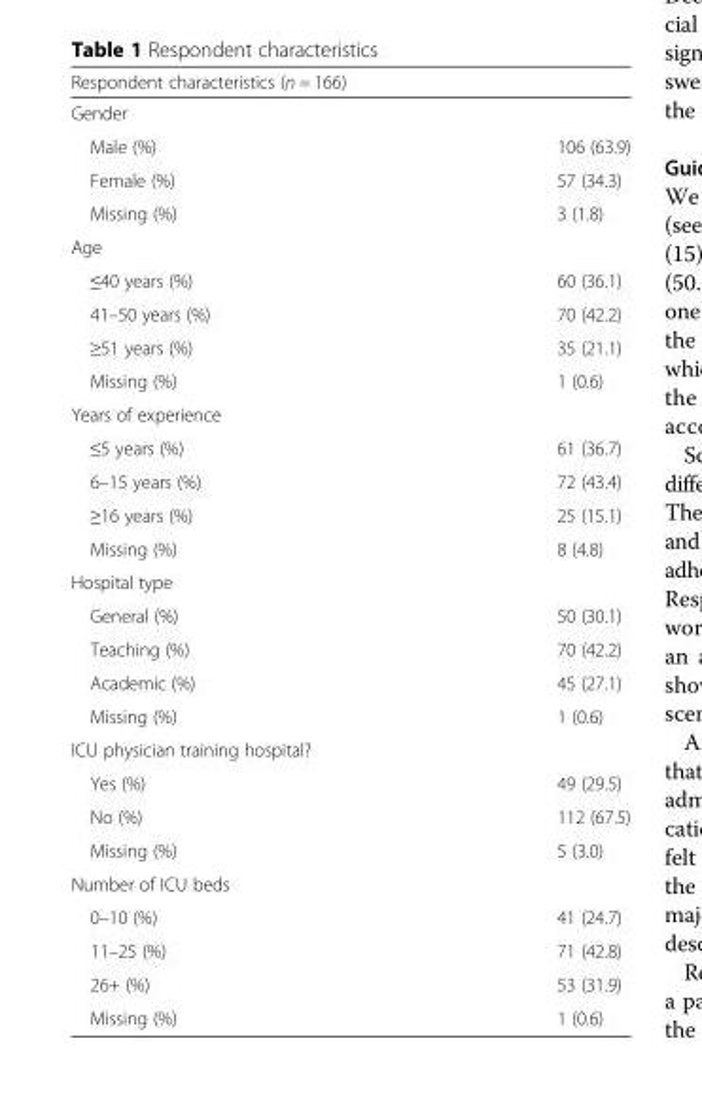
<table><thead><tr><td colspan="2">Respondent characteristics (n = 166)</td></tr><tr><td>Gender</td><td></td></tr></thead><tbody><tr><td>Male (%)</td><td>106 (63.9)</td></tr><tr><td>Female (%)</td><td>57 (34.3)</td></tr><tr><td>Missing (%)</td><td>3 (1.8)</td></tr><tr><td colspan="2">Age</td></tr><tr><td>≤40 years (%)</td><td>60 (36.1)</td></tr><tr><td>41–50 years (%)</td><td>70 (42.2)</td></tr><tr><td>≥51 years (%)</td><td>35 (21.1)</td></tr><tr><td>Missing (%)</td><td>1 (0.6)</td></tr><tr><td colspan="2">Years of experience</td></tr><tr><td>≤5 years (%)</td><td>61 (36.7)</td></tr><tr><td>6–15 years (%)</td><td>72 (43.4)</td></tr><tr><td>≥16 years (%)</td><td>25 (15.1)</td></tr><tr><td>Missing (%)</td><td>8 (4.8)</td></tr><tr><td colspan="2">Hospital type</td></tr><tr><td>General (%)</td><td>50 (30.1)</td></tr><tr><td>Teaching (%)</td><td>70 (42.2)</td></tr><tr><td>Academic (%)</td><td>45 (27.1)</td></tr><tr><td>Missing (%)</td><td>1 (0.6)</td></tr><tr><td colspan="2">ICU physician training hospital?</td></tr><tr><td>Yes (%)</td><td>49 (29.5)</td></tr><tr><td>No (%)</td><td>112 (67.5)</td></tr><tr><td>Missing (%)</td><td>5 (3.0)</td></tr><tr><td colspan="2">Number of ICU beds</td></tr><tr><td>0–10 (%)</td><td>41 (24.7)</td></tr><tr><td>11–25 (%)</td><td>71 (42.8)</td></tr><tr><td>26+ (%)</td><td>53 (31.9)</td></tr><tr><td>Missing (%)</td><td>1 (0.6)</td></tr></tbody></table>